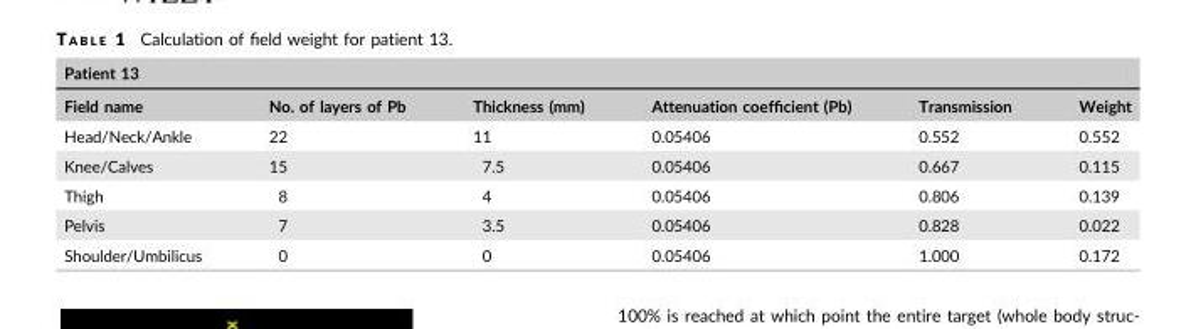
<table><thead><tr><td colspan="6">Patient 13</td></tr><tr><td>Field name</td><td>No. of layers of Pb</td><td>Thickness (mm)</td><td>Attenuation coefficient (Pb)</td><td>Transmission</td><td>Weight</td></tr></thead><tbody><tr><td>Head/Neck/Ankle</td><td>22</td><td>11</td><td>0.05406</td><td>0.552</td><td>0.552</td></tr><tr><td>Knee/Calves</td><td>15</td><td>7.5</td><td>0.05406</td><td>0.667</td><td>0.115</td></tr><tr><td>Thigh</td><td>8</td><td>4</td><td>0.05406</td><td>0.806</td><td>0.139</td></tr><tr><td>Pelvis</td><td>7</td><td>3.5</td><td>0.05406</td><td>0.828</td><td>0.022</td></tr><tr><td>Shoulder/Umbilicus</td><td>0</td><td>0</td><td>0.05406</td><td>1.000</td><td>0.172</td></tr></tbody></table>